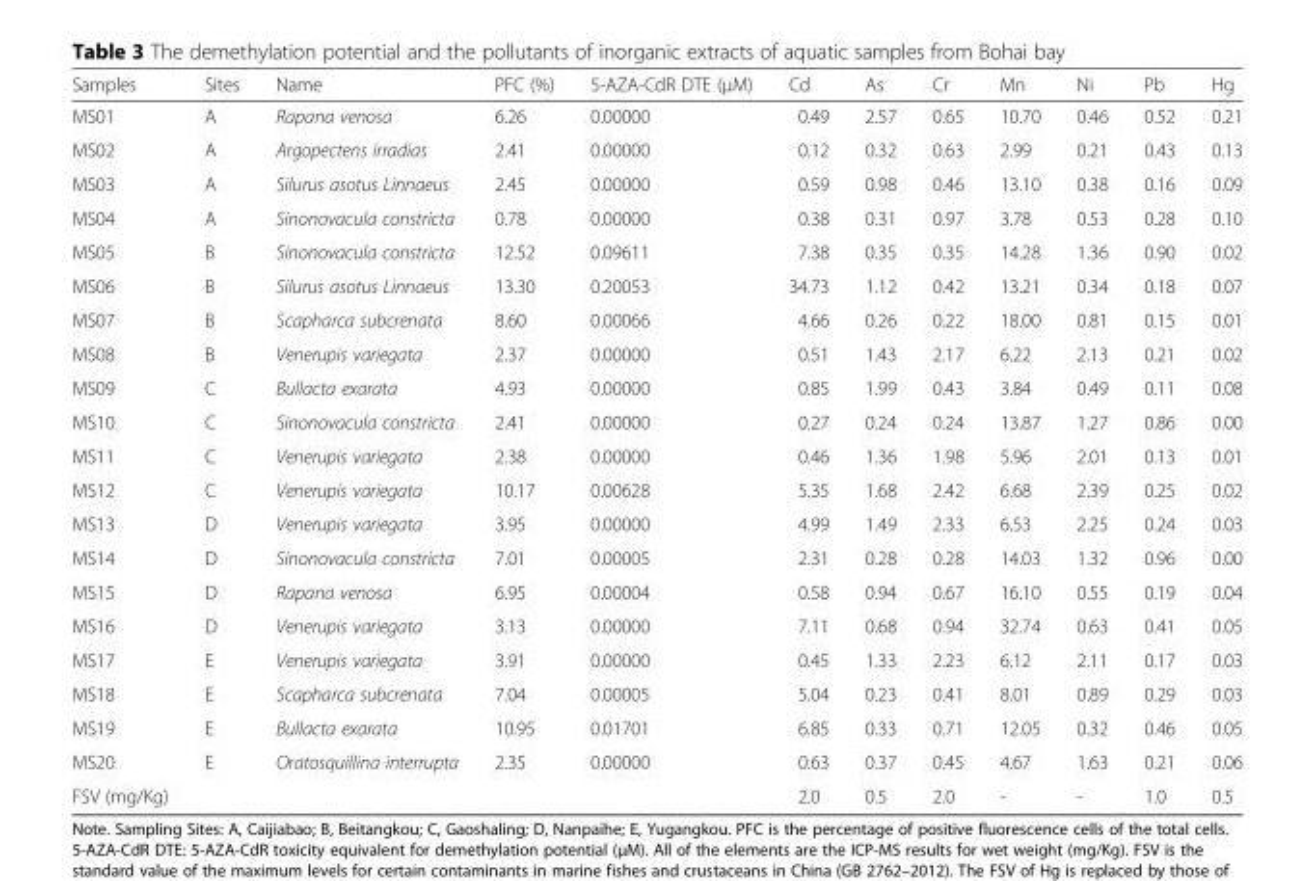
<table><thead><tr><td>Samples</td><td>Sites</td><td>Name</td><td>PFC (%)</td><td>5-AZA-CdR DTE (μM)</td><td>Cd</td><td>As</td><td>Cr</td><td>Mn</td><td>Ni</td><td>Pb</td><td>Hg</td></tr></thead><tbody><tr><td>MS01</td><td>A</td><td>Rapana venosa</td><td>6.26</td><td>0.00000</td><td>0.49</td><td>2.57</td><td>0.65</td><td>10.70</td><td>0.46</td><td>0.52</td><td>0.21</td></tr><tr><td>MS02</td><td>A</td><td>Argopectens irradias</td><td>2.41</td><td>0.00000</td><td>0.12</td><td>0.32</td><td>0.63</td><td>2.99</td><td>0.21</td><td>0.43</td><td>0.13</td></tr><tr><td>MS03</td><td>A</td><td>Silurus asotus Linnaeus</td><td>2.45</td><td>0.00000</td><td>0.59</td><td>0.98</td><td>0.46</td><td>13.10</td><td>0.38</td><td>0.16</td><td>0.09</td></tr><tr><td>MS04</td><td>A</td><td>Sinonovacula constricta</td><td>0.78</td><td>0.00000</td><td>0.38</td><td>0.31</td><td>0.97</td><td>3.78</td><td>0.53</td><td>0.28</td><td>0.10</td></tr><tr><td>MS05</td><td>B</td><td>Sinonovacula constricta</td><td>12.52</td><td>0.09611</td><td>7.38</td><td>0.35</td><td>0.35</td><td>14.28</td><td>1.36</td><td>0.90</td><td>0.02</td></tr><tr><td>MS06</td><td>B</td><td>Silurus asotus Linnaeus</td><td>13.30</td><td>0.20053</td><td>34.73</td><td>1.12</td><td>0.42</td><td>13.21</td><td>0.34</td><td>0.18</td><td>0.07</td></tr><tr><td>MS07</td><td>B</td><td>Scapharca subcrenata</td><td>8.60</td><td>0.00066</td><td>4.66</td><td>0.26</td><td>0.22</td><td>18.00</td><td>0.81</td><td>0.15</td><td>0.01</td></tr><tr><td>MS08</td><td>B</td><td>Venerupis variegata</td><td>2.37</td><td>0.00000</td><td>0.51</td><td>1.43</td><td>2.17</td><td>6.22</td><td>2.13</td><td>0.21</td><td>0.02</td></tr><tr><td>MS09</td><td>C</td><td>Bullacta exarata</td><td>4.93</td><td>0.00000</td><td>0.85</td><td>1.99</td><td>0.43</td><td>3.84</td><td>0.49</td><td>0.11</td><td>0.08</td></tr><tr><td>MS10</td><td>C</td><td>Sinonovacula constricta</td><td>2.41</td><td>0.00000</td><td>0.27</td><td>0.24</td><td>0.24</td><td>13.87</td><td>1.27</td><td>0.86</td><td>0.00</td></tr><tr><td>MS11</td><td>C</td><td>Venerupis variegata</td><td>2.38</td><td>0.00000</td><td>0.46</td><td>1.36</td><td>1.98</td><td>5.96</td><td>2.01</td><td>0.13</td><td>0.01</td></tr><tr><td>MS12</td><td>C</td><td>Venerupis variegata</td><td>10.17</td><td>0.00628</td><td>5.35</td><td>1.68</td><td>2.42</td><td>6.68</td><td>2.39</td><td>0.25</td><td>0.02</td></tr><tr><td>MS13</td><td>D</td><td>Venerupis variegata</td><td>3.95</td><td>0.00000</td><td>4.99</td><td>1.49</td><td>2.33</td><td>6.53</td><td>2.25</td><td>0.24</td><td>0.03</td></tr><tr><td>MS14</td><td>D</td><td>Sinonovacula constricta</td><td>7.01</td><td>0.00005</td><td>2.31</td><td>0.28</td><td>0.28</td><td>14.03</td><td>1.32</td><td>0.96</td><td>0.00</td></tr><tr><td>MS15</td><td>D</td><td>Rapana venosa</td><td>6.95</td><td>0.00004</td><td>0.58</td><td>0.94</td><td>0.67</td><td>16.10</td><td>0.55</td><td>0.19</td><td>0.04</td></tr><tr><td>MS16</td><td>D</td><td>Venerupis variegata</td><td>3.13</td><td>0.00000</td><td>7.11</td><td>0.68</td><td>0.94</td><td>32.74</td><td>0.63</td><td>0.41</td><td>0.05</td></tr><tr><td>MS17</td><td>E</td><td>Venerupis variegata</td><td>3.91</td><td>0.00000</td><td>0.45</td><td>1.33</td><td>2.23</td><td>6.12</td><td>2.11</td><td>0.17</td><td>0.03</td></tr><tr><td>MS18</td><td>E</td><td>Scapharca subcrenata</td><td>7.04</td><td>0.00005</td><td>5.04</td><td>0.23</td><td>0.41</td><td>8.01</td><td>0.89</td><td>0.29</td><td>0.03</td></tr><tr><td>MS19</td><td>E</td><td>Bullacta exarata</td><td>10.95</td><td>0.01701</td><td>6.85</td><td>0.33</td><td>0.71</td><td>12.05</td><td>0.32</td><td>0.46</td><td>0.05</td></tr><tr><td>MS20</td><td>E</td><td>Oratosquillina interrupta</td><td>2.35</td><td>0.00000</td><td>0.63</td><td>0.37</td><td>0.45</td><td>4.67</td><td>1.63</td><td>0.21</td><td>0.06</td></tr><tr><td>FSV (mg/Kg)</td><td></td><td></td><td></td><td></td><td>2.0</td><td>0.5</td><td>2.0</td><td>-</td><td>-</td><td>1.0</td><td>0.5</td></tr></tbody></table>